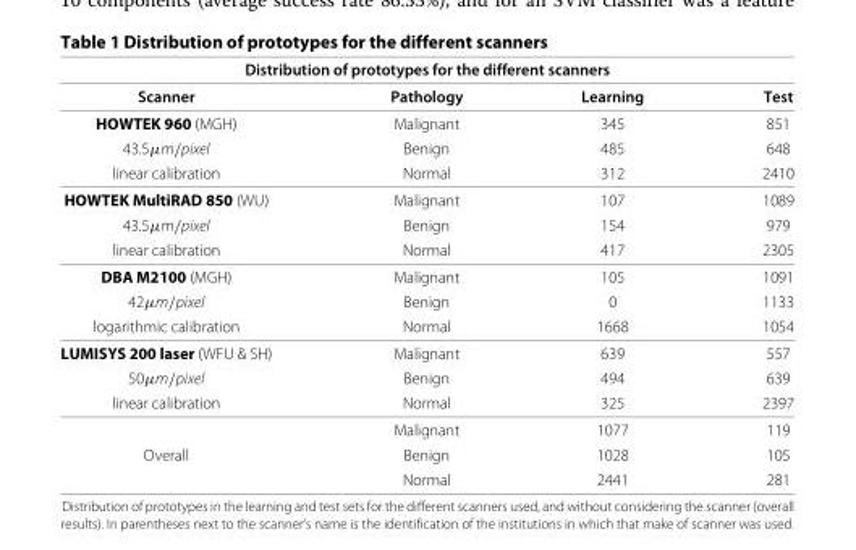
<table><thead><tr><td colspan="4">Distribution of prototypes for the different scanners</td></tr><tr><td>Scanner</td><td>Pathology</td><td>Learning</td><td>Test</td></tr></thead><tbody><tr><td>HOWTEK 960 (MGH)</td><td>Malignant</td><td>345</td><td>851</td></tr><tr><td>43.5μm/pixel</td><td>Benign</td><td>485</td><td>648</td></tr><tr><td>linear calibration</td><td>Normal</td><td>312</td><td>2410</td></tr><tr><td>HOWTEK MultiRAD 850 (WU)</td><td>Malignant</td><td>107</td><td>1089</td></tr><tr><td>43.5μm/pixel</td><td>Benign</td><td>154</td><td>979</td></tr><tr><td>linear calibration</td><td>Normal</td><td>417</td><td>2305</td></tr><tr><td>DBA M2100 (MGH)</td><td>Malignant</td><td>105</td><td>1091</td></tr><tr><td>42μm/pixel</td><td>Benign</td><td>0</td><td>1133</td></tr><tr><td>logarithmic calibration</td><td>Normal</td><td>1668</td><td>1054</td></tr><tr><td>LUMISYS 200 laser (WFU &amp; SH)</td><td>Malignant</td><td>639</td><td>557</td></tr><tr><td>50μm/pixel</td><td>Benign</td><td>494</td><td>639</td></tr><tr><td rowspan="2">linear calibration</td><td>Normal</td><td>325</td><td>2397</td></tr><tr><td>Malignant</td><td>1077</td><td>119</td></tr><tr><td rowspan="2">Overall</td><td>Benign</td><td>1028</td><td>105</td></tr><tr><td>Normal</td><td>2441</td><td>281</td></tr></tbody></table>